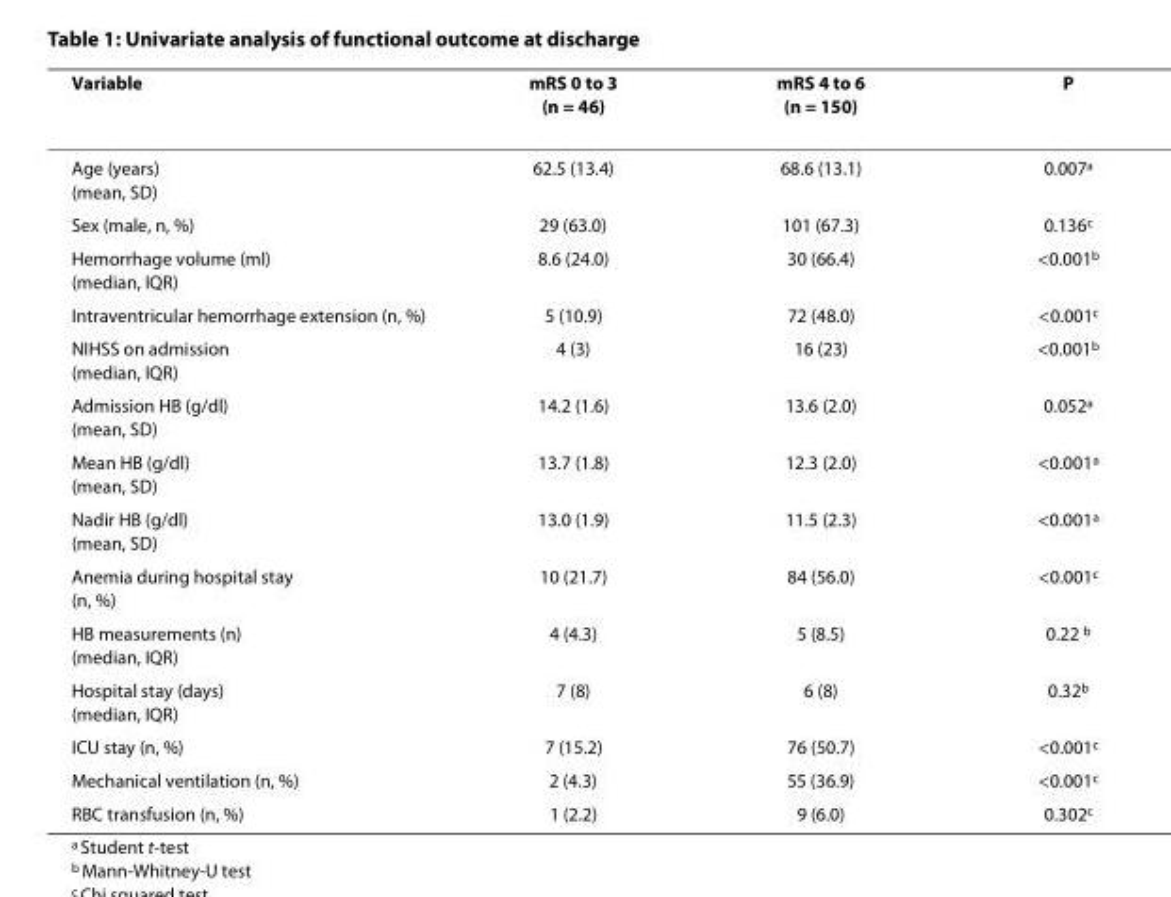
<table><thead><tr><td>Variable</td><td>mRS 0 to 3 (n = 46)</td><td>mRS 4 to 6 (n = 150)</td><td>P</td></tr></thead><tbody><tr><td>Age (years) (mean, SD)</td><td>62.5 (13.4)</td><td>68.6 (13.1)</td><td>0.007<sup>a</sup></td></tr><tr><td>Sex (male, n, %)</td><td>29 (63.0)</td><td>101 (67.3)</td><td>0.136<sup>c</sup></td></tr><tr><td>Hemorrhage volume (ml) (median, IQR)</td><td>8.6 (24.0)</td><td>30 (66.4)</td><td>&lt;0.001<sup>b</sup></td></tr><tr><td>Intraventricular hemorrhage extension (n, %)</td><td>5 (10.9)</td><td>72 (48.0)</td><td>&lt;0.001<sup>c</sup></td></tr><tr><td>NIHSS on admission (median, IQR)</td><td>4 (3)</td><td>16 (23)</td><td>&lt;0.001<sup>b</sup></td></tr><tr><td>Admission HB (g/dl) (mean, SD)</td><td>14.2 (1.6)</td><td>13.6 (2.0)</td><td>0.052<sup>a</sup></td></tr><tr><td>Mean HB (g/dl) (mean, SD)</td><td>13.7 (1.8)</td><td>12.3 (2.0)</td><td>&lt;0.001<sup>a</sup></td></tr><tr><td>Nadir HB (g/dl) (mean, SD)</td><td>13.0 (1.9)</td><td>11.5 (2.3)</td><td>&lt;0.001<sup>a</sup></td></tr><tr><td>Anemia during hospital stay (n, %)</td><td>10 (21.7)</td><td>84 (56.0)</td><td>&lt;0.001<sup>c</sup></td></tr><tr><td>HB measurements (n) (median, IQR)</td><td>4 (4.3)</td><td>5 (8.5)</td><td>0.22 <sup>b</sup></td></tr><tr><td>Hospital stay (days) (median, IQR)</td><td>7 (8)</td><td>6 (8)</td><td>0.32<sup>b</sup></td></tr><tr><td>ICU stay (n, %)</td><td>7 (15.2)</td><td>76 (50.7)</td><td>&lt;0.001<sup>c</sup></td></tr><tr><td>Mechanical ventilation (n, %)</td><td>2 (4.3)</td><td>55 (36.9)</td><td>&lt;0.001<sup>c</sup></td></tr><tr><td>RBC transfusion (n, %)</td><td>1 (2.2)</td><td>9 (6.0)</td><td>0.302<sup>c</sup></td></tr></tbody></table>